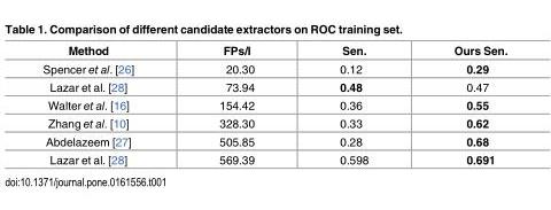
<table><thead><tr><td>Method</td><td>FPs/I</td><td>Sen.</td><td>Ours Sen.</td></tr></thead><tbody><tr><td>Spencer et al. [26]</td><td>20.30</td><td>0.12</td><td>0.29</td></tr><tr><td>Lazar et al. [28]</td><td>73.94</td><td>0.48</td><td>0.47</td></tr><tr><td>Walter et al. [16]</td><td>154.42</td><td>0.36</td><td>0.55</td></tr><tr><td>Zhang et al. [10]</td><td>328.30</td><td>0.33</td><td>0.62</td></tr><tr><td>Abdelazeem [27]</td><td>505.85</td><td>0.28</td><td>0.68</td></tr><tr><td>Lazar et al. [28]</td><td>569.39</td><td>0.598</td><td>0.691</td></tr></tbody></table>